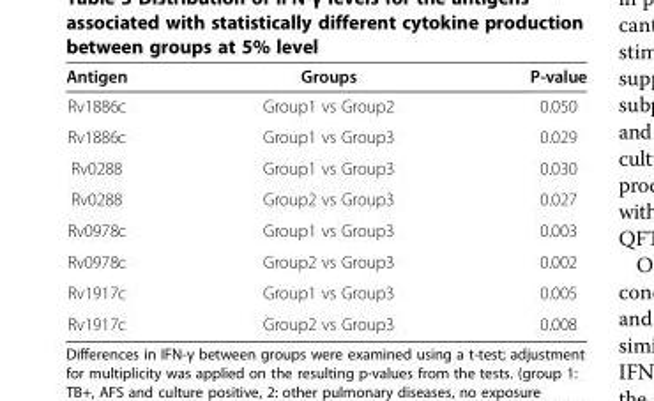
<table><thead><tr><td>Antigen</td><td>Groups</td><td>P-value</td></tr></thead><tbody><tr><td>Rv1886c</td><td>Group1 vs Group2</td><td>0.050</td></tr><tr><td>Rv1886c</td><td>Group1 vs Group3</td><td>0.029</td></tr><tr><td>Rv0288</td><td>Group1 vs Group3</td><td>0.030</td></tr><tr><td>Rv0288</td><td>Group2 vs Group3</td><td>0.027</td></tr><tr><td>Rv0978c</td><td>Group1 vs Group3</td><td>0.003</td></tr><tr><td>Rv0978c</td><td>Group2 vs Group3</td><td>0.002</td></tr><tr><td>Rv1917c</td><td>Group1 vs Group3</td><td>0.005</td></tr><tr><td>Rv1917c</td><td>Group2 vs Group3</td><td>0.008</td></tr></tbody></table>